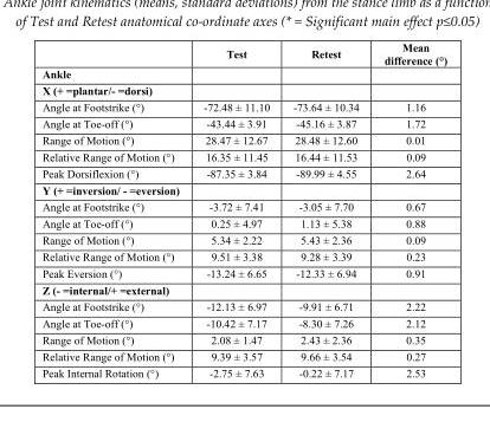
<table><thead><tr><td></td><td>Test</td><td>Retest</td><td>Mean difference (°)</td></tr></thead><tbody><tr><td colspan="4">Ankle</td></tr><tr><td colspan="4">X (+ =plantar/- =dorsi)</td></tr><tr><td>Angle at Footstrike (°)</td><td>-72.48 ± 11.10</td><td>-73.64 ± 10.34</td><td>1.16</td></tr><tr><td>Angle at Toe-off (°)</td><td>-43.44 ± 3.91</td><td>-45.16 ± 3.87</td><td>1.72</td></tr><tr><td>Range of Motion (°)</td><td>28.47 ± 12.67</td><td>28.48 ± 12.60</td><td>0.01</td></tr><tr><td>Relative Range of Motion (°)</td><td>16.35 ± 11.45</td><td>16.44 ± 11.53</td><td>0.09</td></tr><tr><td>Peak Dorsiflexion (°)</td><td>-87.35 ± 3.84</td><td>-89.99 ± 4.55</td><td>2.64</td></tr><tr><td colspan="4">Y (+ =inversion/ - =eversion)</td></tr><tr><td>Angle at Footstrike (°)</td><td>-3.72 ± 7.41</td><td>-3.05 ± 7.70</td><td>0.67</td></tr><tr><td>Angle at Toe-off (°)</td><td>0.25 ± 4.97</td><td>1.13 ± 5.38</td><td>0.88</td></tr><tr><td>Range of Motion (°)</td><td>5.34 ± 2.22</td><td>5.43 ± 2.36</td><td>0.09</td></tr><tr><td>Relative Range of Motion (°)</td><td>9.51 ± 3.38</td><td>9.28 ± 3.39</td><td>0.23</td></tr><tr><td>Peak Eversion (°)</td><td>-13.24 ± 6.65</td><td>-12.33 ± 6.94</td><td>0.91</td></tr><tr><td colspan="4">Z (- =internal/+ =external)</td></tr><tr><td>Angle at Footstrike (°)</td><td>-12.13 ± 6.97</td><td>-9.91 ± 6.71</td><td>2.22</td></tr><tr><td>Angle at Toe-off (°)</td><td>-10.42 ± 7.17</td><td>-8.30 ± 7.26</td><td>2.12</td></tr><tr><td>Range of Motion (°)</td><td>2.08 ± 1.47</td><td>2.43 ± 2.36</td><td>0.35</td></tr><tr><td>Relative Range of Motion (°)</td><td>9.39 ± 3.57</td><td>9.66 ± 3.54</td><td>0.27</td></tr><tr><td>Peak Internal Rotation (°)</td><td>-2.75 ± 7.63</td><td>-0.22 ± 7.17</td><td>2.53</td></tr></tbody></table>